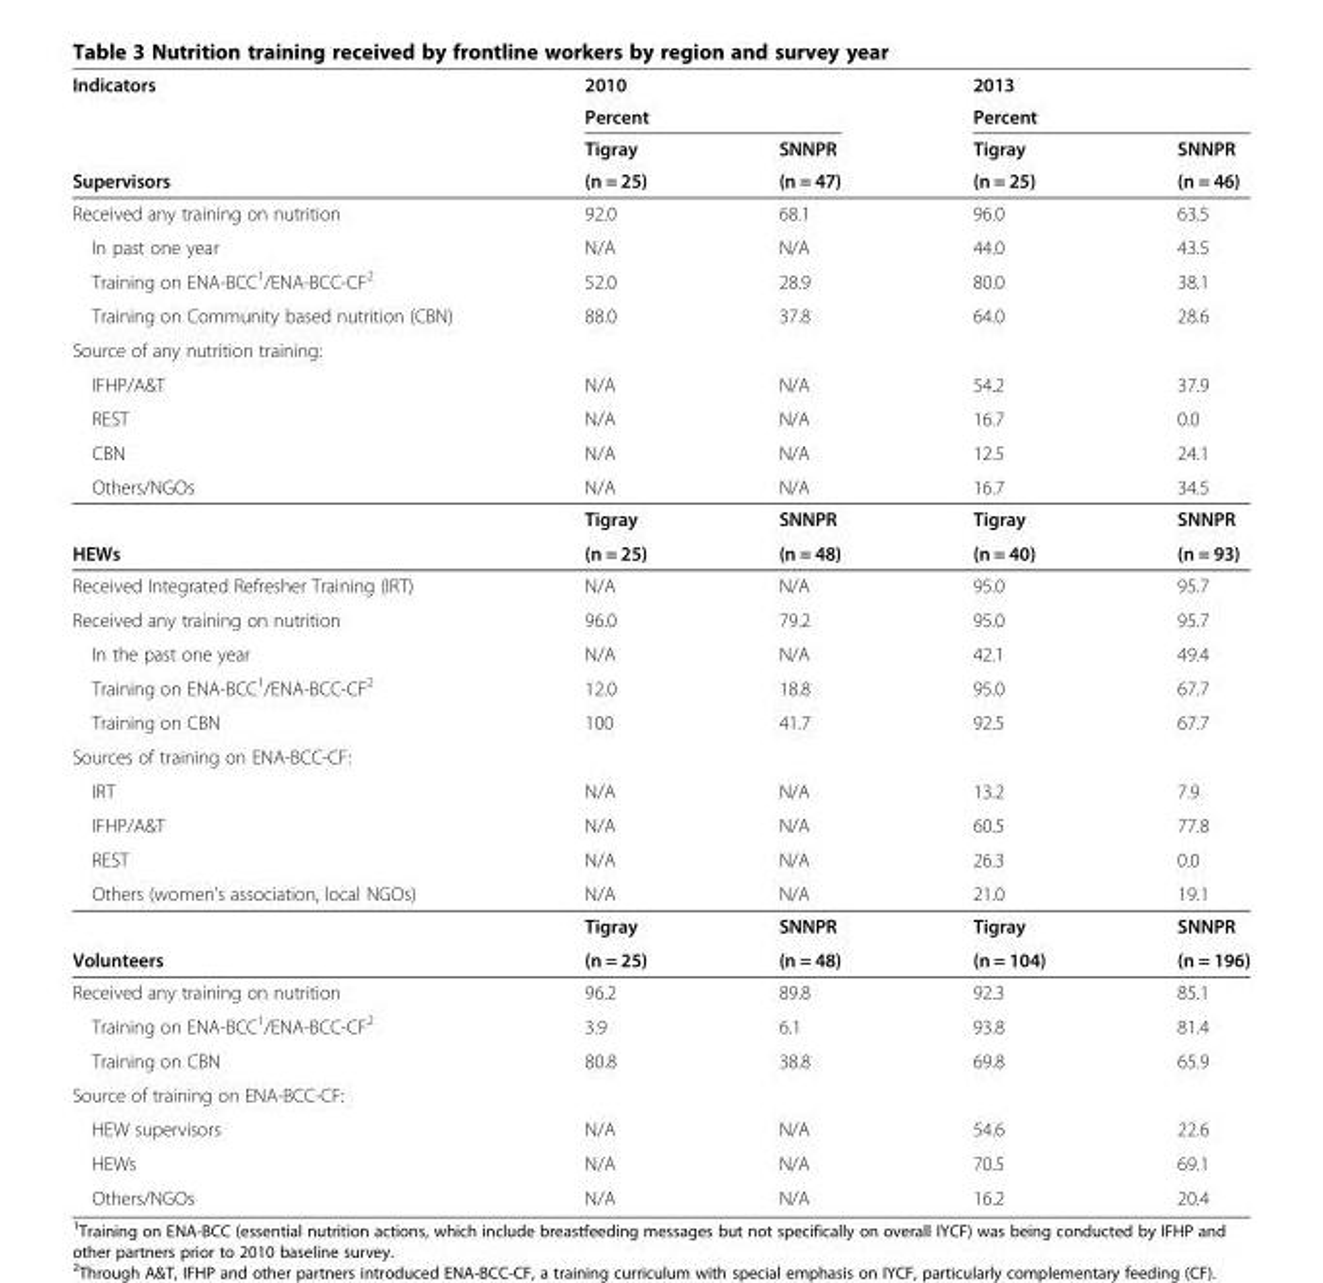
<table><thead><tr><td rowspan="4">Indicators Supervisors</td><td rowspan="2" colspan="2">2010 Percent</td><td rowspan="2" colspan="2">2013 Percent</td></tr><tr></tr><tr><td rowspan="2">Tigray (n = 25)</td><td rowspan="2">SNNPR (n = 47)</td><td rowspan="2">Tigray (n = 25)</td><td rowspan="2">SNNPR (n = 46)</td></tr><tr></tr></thead><tbody><tr><td>Received any training on nutrition</td><td>92.0</td><td>68.1</td><td>96.0</td><td>63.5</td></tr><tr><td>In past one year</td><td>N/A</td><td>N/A</td><td>44.0</td><td>43.5</td></tr><tr><td>Training on ENA-BCC<sup>1</sup>/ENA-BCC-CF<sup>2</sup></td><td>52.0</td><td>28.9</td><td>80.0</td><td>38.1</td></tr><tr><td>Training on Community based nutrition (CBN)</td><td>88.0</td><td>37.8</td><td>64.0</td><td>28.6</td></tr><tr><td colspan="5">Source of any nutrition training:</td></tr><tr><td>IFHP/A&amp;T</td><td>N/A</td><td>N/A</td><td>54.2</td><td>37.9</td></tr><tr><td>REST</td><td>N/A</td><td>N/A</td><td>16.7</td><td>0.0</td></tr><tr><td>CBN</td><td>N/A</td><td>N/A</td><td>12.5</td><td>24.1</td></tr><tr><td rowspan="2">Others/NGOs</td><td>N/A</td><td>N/A</td><td>16.7</td><td>34.5</td></tr><tr><td>Tigray</td><td>SNNPR</td><td>Tigray</td><td>SNNPR</td></tr><tr><td>HEWs</td><td>(n = 25)</td><td>(n = 48)</td><td>(n = 40)</td><td>(n = 93)</td></tr><tr><td>Received Integrated Refresher Training (IRT)</td><td>N/A</td><td>N/A</td><td>95.0</td><td>95.7</td></tr><tr><td>Received any training on nutrition</td><td>96.0</td><td>79.2</td><td>95.0</td><td>95.7</td></tr><tr><td>In the past one year</td><td>N/A</td><td>N/A</td><td>42.1</td><td>49.4</td></tr><tr><td>Training on ENA-BCC<sup>1</sup>/ENA-BCC-CF<sup>2</sup></td><td>12.0</td><td>18.8</td><td>95.0</td><td>67.7</td></tr><tr><td>Training on CBN</td><td>100</td><td>41.7</td><td>92.5</td><td>67.7</td></tr><tr><td colspan="5">Sources of training on ENA-BCC-CF:</td></tr><tr><td>IRT</td><td>N/A</td><td>N/A</td><td>13.2</td><td>7.9</td></tr><tr><td>IFHP/A&amp;T</td><td>N/A</td><td>N/A</td><td>60.5</td><td>77.8</td></tr><tr><td>REST</td><td>N/A</td><td>N/A</td><td>26.3</td><td>0.0</td></tr><tr><td rowspan="2">Others (women’s association, local NGOs)</td><td>N/A</td><td>N/A</td><td>21.0</td><td>19.1</td></tr><tr><td>Tigray</td><td>SNNPR</td><td>Tigray</td><td>SNNPR</td></tr><tr><td>Volunteers</td><td>(n = 25)</td><td>(n = 48)</td><td>(n = 104)</td><td>(n = 196)</td></tr><tr><td>Received any training on nutrition</td><td>96.2</td><td>89.8</td><td>92.3</td><td>85.1</td></tr><tr><td>Training on ENA-BCC<sup>1</sup>/ENA-BCC-CF<sup>2</sup></td><td>3.9</td><td>6.1</td><td>93.8</td><td>81.4</td></tr><tr><td>Training on CBN</td><td>80.8</td><td>38.8</td><td>69.8</td><td>65.9</td></tr><tr><td colspan="5">Source of training on ENA-BCC-CF:</td></tr><tr><td>HEW supervisors</td><td>N/A</td><td>N/A</td><td>54.6</td><td>22.6</td></tr><tr><td>HEWs</td><td>N/A</td><td>N/A</td><td>70.5</td><td>69.1</td></tr><tr><td>Others/NGOs</td><td>N/A</td><td>N/A</td><td>16.2</td><td>20.4</td></tr></tbody></table>